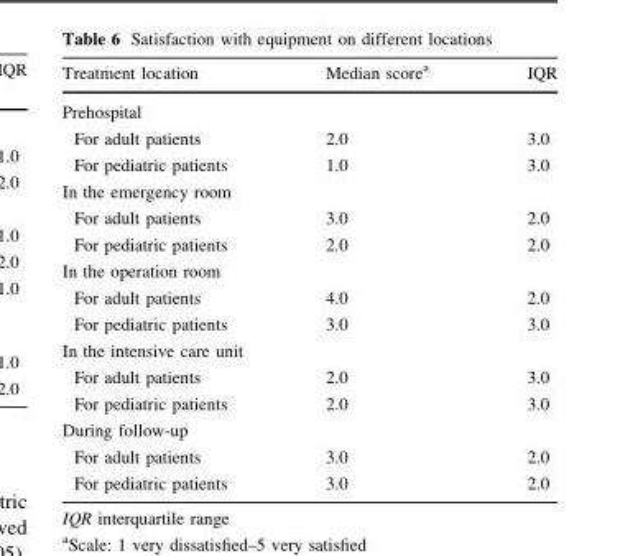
<table><thead><tr><td>Treatment location</td><td>Median score<sup>a</sup></td><td>IQR</td></tr></thead><tbody><tr><td colspan="3">Prehospital</td></tr><tr><td>For adult patients</td><td>2.0</td><td>3.0</td></tr><tr><td>For pediatric patients</td><td>1.0</td><td>3.0</td></tr><tr><td colspan="3">In the emergency room</td></tr><tr><td>For adult patients</td><td>3.0</td><td>2.0</td></tr><tr><td>For pediatric patients</td><td>2.0</td><td>2.0</td></tr><tr><td colspan="3">In the operation room</td></tr><tr><td>For adult patients</td><td>4.0</td><td>2.0</td></tr><tr><td>For pediatric patients</td><td>3.0</td><td>3.0</td></tr><tr><td colspan="3">In the intensive care unit</td></tr><tr><td>For adult patients</td><td>2.0</td><td>3.0</td></tr><tr><td>For pediatric patients</td><td>2.0</td><td>3.0</td></tr><tr><td colspan="3">During follow-up</td></tr><tr><td>For adult patients</td><td>3.0</td><td>2.0</td></tr><tr><td>For pediatric patients</td><td>3.0</td><td>2.0</td></tr></tbody></table>